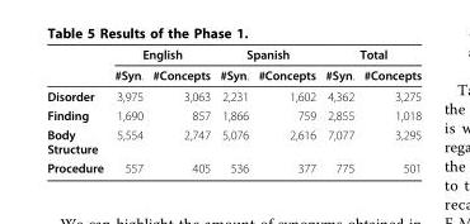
<table><thead><tr><td rowspan="2"></td><td colspan="2">English</td><td colspan="2">Spanish</td><td colspan="2">Total</td></tr><tr><td>#Syn.</td><td>#Concepts</td><td>#Syn.</td><td>#Concepts</td><td>#Syn.</td><td>#Concepts</td></tr></thead><tbody><tr><td>Disorder</td><td>3,975</td><td>3,063</td><td>2,231</td><td>1,602</td><td>4,362</td><td>3,275</td></tr><tr><td>Finding</td><td>1,690</td><td>857</td><td>1,866</td><td>759</td><td>2,855</td><td>1,018</td></tr><tr><td>Body Structure</td><td>5,554</td><td>2,747</td><td>5,076</td><td>2,616</td><td>7,077</td><td>3,295</td></tr><tr><td>Procedure</td><td>557</td><td>405</td><td>536</td><td>377</td><td>775</td><td>501</td></tr></tbody></table>